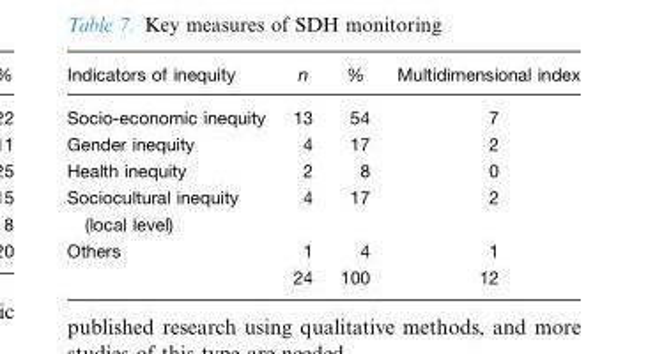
<table><thead><tr><td>Indicators of inequity</td><td>n</td><td>%</td><td>Multidimensional index</td></tr></thead><tbody><tr><td>Socio-economic inequity</td><td>13</td><td>54</td><td>7</td></tr><tr><td>Gender inequity</td><td>4</td><td>17</td><td>2</td></tr><tr><td>Health inequity</td><td>2</td><td>8</td><td>0</td></tr><tr><td>Sociocultural inequity (local level)</td><td>4</td><td>17</td><td>2</td></tr><tr><td rowspan="2">Others</td><td>1</td><td>4</td><td>1</td></tr><tr><td>24</td><td>100</td><td>12</td></tr></tbody></table>